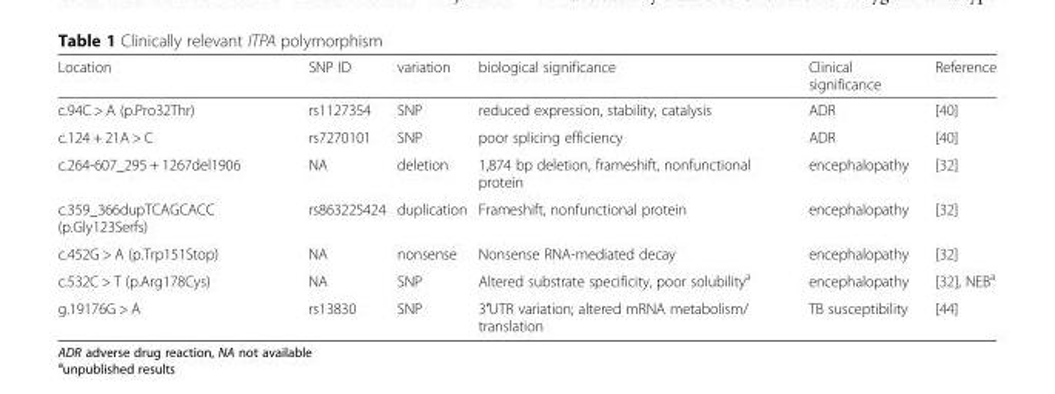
<table><thead><tr><td>Location</td><td>SNP ID</td><td>variation</td><td>biological significance</td><td>Clinical significance</td><td>Reference</td></tr></thead><tbody><tr><td>c.94C &gt; A (p.Pro32Thr)</td><td>rs1127354</td><td>SNP</td><td>reduced expression, stability, catalysis</td><td>ADR</td><td>[40]</td></tr><tr><td>c.124 + 21A &gt; C</td><td>rs7270101</td><td>SNP</td><td>poor splicing efficiency</td><td>ADR</td><td>[40]</td></tr><tr><td>c.264-607_295 + 1267del1906</td><td>NA</td><td>deletion</td><td>1,874 bp deletion, frameshift, nonfunctional protein</td><td>encephalopathy</td><td>[32]</td></tr><tr><td>c.359_366dupTCAGCACC (p.Gly123Serfs)</td><td>rs863225424</td><td>duplication</td><td>Frameshift, nonfunctional protein</td><td>encephalopathy</td><td>[32]</td></tr><tr><td>c.452G &gt; A (p.Trp151Stop)</td><td>NA</td><td>nonsense</td><td>Nonsense RNA-mediated decay</td><td>encephalopathy</td><td>[32]</td></tr><tr><td>c.532C &gt; T (p.Arg178Cys)</td><td>NA</td><td>SNP</td><td>Altered substrate specificity, poor solubility<sup>a</sup></td><td>encephalopathy</td><td>[32], NEB<sup>a</sup></td></tr><tr><td>g.19176G &gt; A</td><td>rs13830</td><td>SNP</td><td>3′UTR variation; altered mRNA metabolism/ translation</td><td>TB susceptibility</td><td>[44]</td></tr></tbody></table>